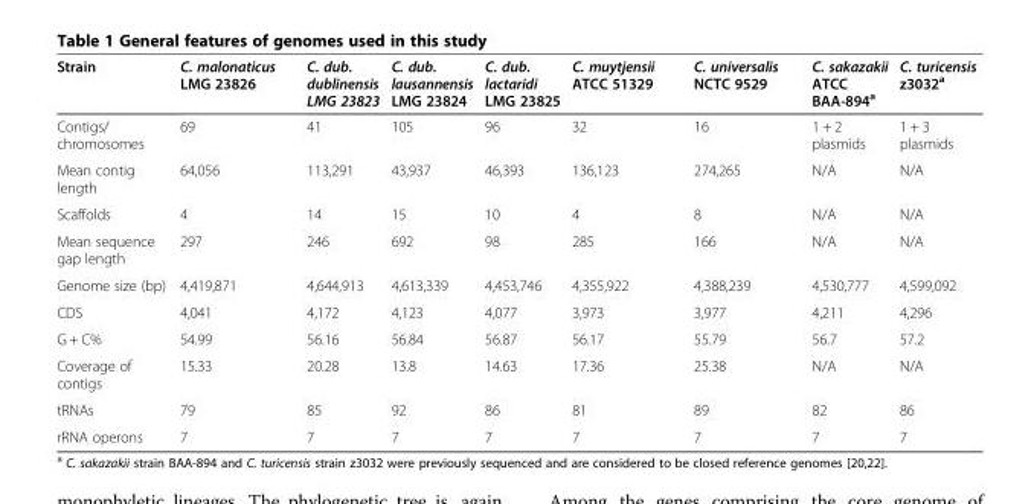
<table><thead><tr><td>Strain</td><td>C. malonaticus LMG 23826</td><td>C. dub. dublinensis LMG 23823</td><td>C. dub. lausannensis LMG 23824</td><td>C. dub. lactaridi LMG 23825</td><td>C. muytjensii ATCC 51329</td><td>C. universalis NCTC 9529</td><td>C. sakazakii ATCC BAA-894<sup>a</sup></td><td>C. turicensis z3032<sup>a</sup></td></tr></thead><tbody><tr><td>Contigs/ chromosomes</td><td>69</td><td>41</td><td>105</td><td>96</td><td>32</td><td>16</td><td>1 + 2 plasmids</td><td>1 + 3 plasmids</td></tr><tr><td>Mean contig length</td><td>64,056</td><td>113,291</td><td>43,937</td><td>46,393</td><td>136,123</td><td>274,265</td><td>N/A</td><td>N/A</td></tr><tr><td>Scaffolds</td><td>4</td><td>14</td><td>15</td><td>10</td><td>4</td><td>8</td><td>N/A</td><td>N/A</td></tr><tr><td>Mean sequence gap length</td><td>297</td><td>246</td><td>692</td><td>98</td><td>285</td><td>166</td><td>N/A</td><td>N/A</td></tr><tr><td>Genome size (bp)</td><td>4,419,871</td><td>4,644,913</td><td>4,613,339</td><td>4,453,746</td><td>4,355,922</td><td>4,388,239</td><td>4,530,777</td><td>4,599,092</td></tr><tr><td>CDS</td><td>4,041</td><td>4,172</td><td>4,123</td><td>4,077</td><td>3,973</td><td>3,977</td><td>4,211</td><td>4,296</td></tr><tr><td>G + C%</td><td>54.99</td><td>56.16</td><td>56.84</td><td>56.87</td><td>56.17</td><td>55.79</td><td>56.7</td><td>57.2</td></tr><tr><td>Coverage of contigs</td><td>15.33</td><td>20.28</td><td>13.8</td><td>14.63</td><td>17.36</td><td>25.38</td><td>N/A</td><td>N/A</td></tr><tr><td>tRNAs</td><td>79</td><td>85</td><td>92</td><td>86</td><td>81</td><td>89</td><td>82</td><td>86</td></tr><tr><td>rRNA operons</td><td>7</td><td>7</td><td>7</td><td>7</td><td>7</td><td>7</td><td>7</td><td>7</td></tr></tbody></table>